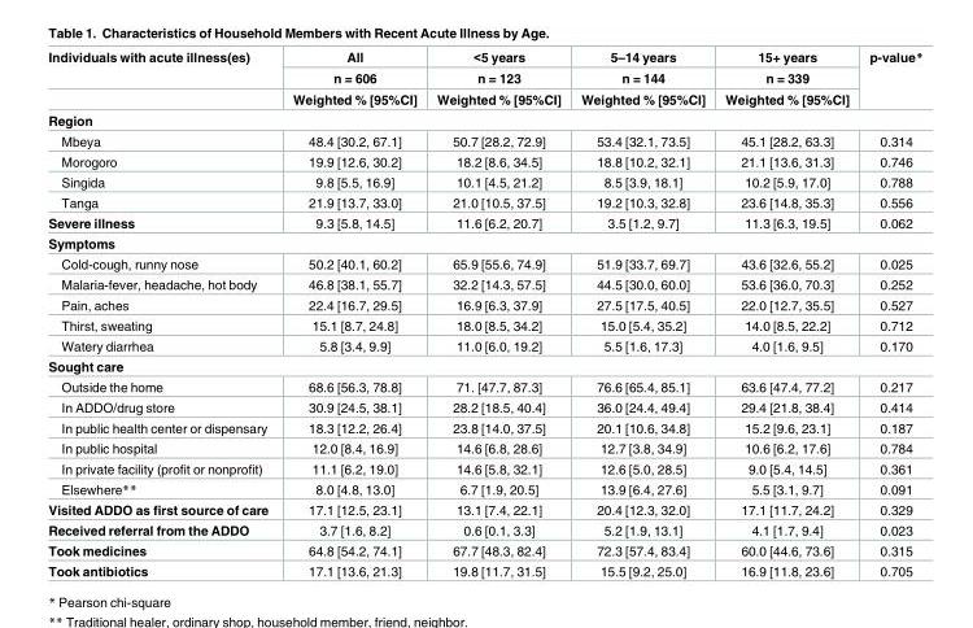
<table><thead><tr><td rowspan="3">Individuals with acute illness(es)</td><td rowspan="3">All n = 606 Weighted % [95%CI]</td><td rowspan="3">&lt;5 years n = 123 Weighted % [95%CI]</td><td rowspan="3">5–14 years n = 144 Weighted % [95%CI]</td><td rowspan="3">15+ years n = 339 Weighted % [95%CI]</td><td rowspan="3">p-value*</td></tr><tr></tr><tr></tr></thead><tbody><tr><td colspan="6">Region</td></tr><tr><td>Mbeya</td><td>48.4 [30.2, 67.1]</td><td>50.7 [28.2, 72.9]</td><td>53.4 [32.1, 73.5]</td><td>45.1 [28.2, 63.3]</td><td>0.314</td></tr><tr><td>Morogoro</td><td>19.9 [12.6, 30.2]</td><td>18.2 [8.6, 34.5]</td><td>18.8 [10.2, 32.1]</td><td>21.1 [13.6, 31.3]</td><td>0.746</td></tr><tr><td>Singida</td><td>9.8 [5.5, 16.9]</td><td>10.1 [4.5, 21.2]</td><td>8.5 [3.9, 18.1]</td><td>10.2 [5.9, 17.0]</td><td>0.788</td></tr><tr><td>Tanga</td><td>21.9 [13.7, 33.0]</td><td>21.0 [10.5, 37.5]</td><td>19.2 [10.3, 32.8]</td><td>23.6 [14.8, 35.3]</td><td>0.556</td></tr><tr><td>Severe illness</td><td>9.3 [5.8, 14.5]</td><td>11.6 [6.2, 20.7]</td><td>3.5 [1.2, 9.7]</td><td>11.3 [6.3, 19.5]</td><td>0.062</td></tr><tr><td colspan="6">Symptoms</td></tr><tr><td>Cold-cough, runny nose</td><td>50.2 [40.1, 60.2]</td><td>65.9 [55.6, 74.9]</td><td>51.9 [33.7, 69.7]</td><td>43.6 [32.6, 55.2]</td><td>0.025</td></tr><tr><td>Malaria-fever, headache, hot body</td><td>46.8 [38.1, 55.7]</td><td>32.2 [14.3, 57.5]</td><td>44.5 [30.0, 60.0]</td><td>53.6 [36.0, 70.3]</td><td>0.252</td></tr><tr><td>Pain, aches</td><td>22.4 [16.7, 29.5]</td><td>16.9 [6.3, 37.9]</td><td>27.5 [17.5, 40.5]</td><td>22.0 [12.7, 35.5]</td><td>0.527</td></tr><tr><td>Thirst, sweating</td><td>15.1 [8.7, 24.8]</td><td>18.0 [8.5, 34.2]</td><td>15.0 [5.4, 35.2]</td><td>14.0 [8.5, 22.2]</td><td>0.712</td></tr><tr><td>Watery diarrhea</td><td>5.8 [3.4, 9.9]</td><td>11.0 [6.0, 19.2]</td><td>5.5 [1.6, 17.3]</td><td>4.0 [1.6, 9.5]</td><td>0.170</td></tr><tr><td colspan="6">Sought care</td></tr><tr><td>Outside the home</td><td>68.6 [56.3, 78.8]</td><td>71. [47.7, 87.3]</td><td>76.6 [65.4, 85.1]</td><td>63.6 [47.4, 77.2]</td><td>0.217</td></tr><tr><td>In ADDO/drug store</td><td>30.9 [24.5, 38.1]</td><td>28.2 [18.5, 40.4]</td><td>36.0 [24.4, 49.4]</td><td>29.4 [21.8, 38.4]</td><td>0.414</td></tr><tr><td>In public health center or dispensary</td><td>18.3 [12.2, 26.4]</td><td>23.8 [14.0, 37.5]</td><td>20.1 [10.6, 34.8]</td><td>15.2 [9.6, 23.1]</td><td>0.187</td></tr><tr><td>In public hospital</td><td>12.0 [8.4, 16.9]</td><td>14.6 [6.8, 28.6]</td><td>12.7 [3.8, 34.9]</td><td>10.6 [6.2, 17.6]</td><td>0.784</td></tr><tr><td>In private facility (profit or nonprofit)</td><td>11.1 [6.2, 19.0]</td><td>14.6 [5.8, 32.1]</td><td>12.6 [5.0, 28.5]</td><td>9.0 [5.4, 14.5]</td><td>0.361</td></tr><tr><td>Elsewhere**</td><td>8.0 [4.8, 13.0]</td><td>6.7 [1.9, 20.5]</td><td>13.9 [6.4, 27.6]</td><td>5.5 [3.1, 9.7]</td><td>0.091</td></tr><tr><td>Visited ADDO as first source of care</td><td>17.1 [12.5, 23.1]</td><td>13.1 [7.4, 22.1]</td><td>20.4 [12.3, 32.0]</td><td>17.1 [11.7, 24.2]</td><td>0.329</td></tr><tr><td>Received referral from the ADDO</td><td>3.7 [1.6, 8.2]</td><td>0.6 [0.1, 3.3]</td><td>5.2 [1.9, 13.1]</td><td>4.1 [1.7, 9.4]</td><td>0.023</td></tr><tr><td>Took medicines</td><td>64.8 [54.2, 74.1]</td><td>67.7 [48.3, 82.4]</td><td>72.3 [57.4, 83.4]</td><td>60.0 [44.6, 73.6]</td><td>0.315</td></tr><tr><td>Took antibiotics</td><td>17.1 [13.6, 21.3]</td><td>19.8 [11.7, 31.5]</td><td>15.5 [9.2, 25.0]</td><td>16.9 [11.8, 23.6]</td><td>0.705</td></tr></tbody></table>